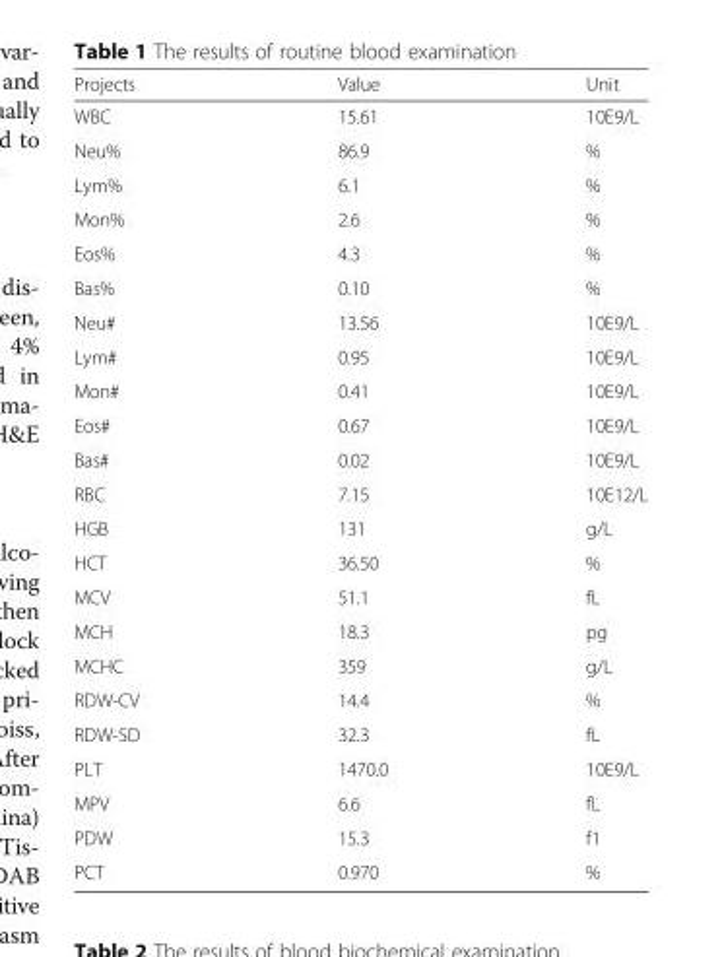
<table><thead><tr><td>Projects</td><td>Value</td><td>Unit</td></tr></thead><tbody><tr><td>WBC</td><td>15.61</td><td>10E9/L</td></tr><tr><td>Neu%</td><td>86.9</td><td>%</td></tr><tr><td>Lym%</td><td>6.1</td><td>%</td></tr><tr><td>Mon%</td><td>2.6</td><td>%</td></tr><tr><td>Eos%</td><td>4.3</td><td>%</td></tr><tr><td>Bas%</td><td>0.10</td><td>%</td></tr><tr><td>Neu#</td><td>13.56</td><td>10E9/L</td></tr><tr><td>Lym#</td><td>0.95</td><td>10E9/L</td></tr><tr><td>Mon#</td><td>0.41</td><td>10E9/L</td></tr><tr><td>Eos#</td><td>0.67</td><td>10E9/L</td></tr><tr><td>Bas#</td><td>0.02</td><td>10E9/L</td></tr><tr><td>RBC</td><td>7.15</td><td>10E12/L</td></tr><tr><td>HGB</td><td>131</td><td>g/L</td></tr><tr><td>HCT</td><td>36.50</td><td>%</td></tr><tr><td>MCV</td><td>51.1</td><td>fL</td></tr><tr><td>MCH</td><td>18.3</td><td>pg</td></tr><tr><td>MCHC</td><td>359</td><td>g/L</td></tr><tr><td>RDW-CV</td><td>14.4</td><td>%</td></tr><tr><td>RDW-SD</td><td>32.3</td><td>fL</td></tr><tr><td>PLT</td><td>1470.0</td><td>10E9/L</td></tr><tr><td>MPV</td><td>6.6</td><td>fL</td></tr><tr><td>PDW</td><td>15.3</td><td>f1</td></tr><tr><td>PCT</td><td>0.970</td><td>%</td></tr></tbody></table>